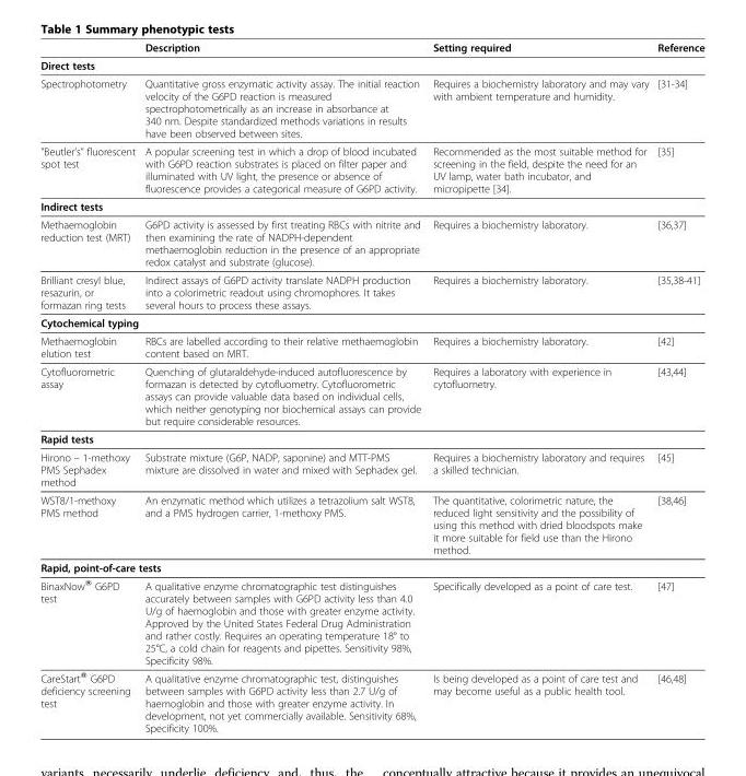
<table><thead><tr><td></td><td>Description</td><td>Setting required</td><td>Reference</td></tr></thead><tbody><tr><td colspan="4">Direct tests</td></tr><tr><td>Spectrophotometry</td><td>Quantitative gross enzymatic activity assay. The initial reaction velocity of the G6PD reaction is measured spectrophotometrically as an increase in absorbance at 340 nm. Despite standardized methods variations in results have been observed between sites.</td><td>Requires a biochemistry laboratory and may vary with ambient temperature and humidity.</td><td>[31-34]</td></tr><tr><td>”Beutler’s” fluorescent spot test</td><td>A popular screening test in which a drop of blood incubated with G6PD reaction substrates is placed on filter paper and illuminated with UV light, the presence or absence of fluorescence provides a categorical measure of G6PD activity.</td><td>Recommended as the most suitable method for screening in the field, despite the need for an UV lamp, water bath incubator, and micropipette [34].</td><td>[35]</td></tr><tr><td colspan="4">Indirect tests</td></tr><tr><td>Methaemoglobin reduction test (MRT)</td><td>G6PD activity is assessed by first treating RBCs with nitrite and then examining the rate of NADPH-dependent methaemoglobin reduction in the presence of an appropriate redox catalyst and substrate (glucose).</td><td>Requires a biochemistry laboratory.</td><td>[36,37]</td></tr><tr><td>Brilliant cresyl blue, resazurin, or formazan ring tests</td><td>Indirect assays of G6PD activity translate NADPH production into a colorimetric readout using chromophores. It takes several hours to process these assays.</td><td>Requires a biochemistry laboratory.</td><td>[35,38-41]</td></tr><tr><td colspan="4">Cytochemical typing</td></tr><tr><td>Methaemoglobin elution test</td><td>RBCs are labelled according to their relative methaemoglobin content based on MRT.</td><td>Requires a biochemistry laboratory.</td><td>[42]</td></tr><tr><td>Cytofluorometric assay</td><td>Quenching of glutaraldehyde-induced autofluorescence by formazan is detected by cytofluometry. Cytofluorometric assays can provide valuable data based on individual cells, which neither genotyping nor biochemical assays can provide but require considerable resources.</td><td>Requires a laboratory with experience in cytofluometry.</td><td>[43,44]</td></tr><tr><td colspan="4">Rapid tests</td></tr><tr><td>Hirono – 1-methoxy PMS Sephadex method</td><td>Substrate mixture (G6P, NADP, saponine) and MTT-PMS mixture are dissolved in water and mixed with Sephadex gel.</td><td>Requires a biochemistry laboratory and requires a skilled technician.</td><td>[45]</td></tr><tr><td>WST8/1-methoxy PMS method</td><td>An enzymatic method which utilizes a tetrazolium salt WST8, and a PMS hydrogen carrier, 1-methoxy PMS.</td><td>The quantitative, colorimetric nature, the reduced light sensitivity and the possibility of using this method with dried bloodspots make it more suitable for field use than the Hirono method.</td><td>[38,46]</td></tr><tr><td colspan="4">Rapid, point-of-care tests</td></tr><tr><td>BinaxNow<sup>®</sup> G6PD test</td><td>A qualitative enzyme chromatographic test distinguishes accurately between samples with G6PD activity less than 4.0 U/g of haemoglobin and those with greater enzyme activity. Approved by the United States Federal Drug Administration and rather costly. Requires an operating temperature 18° to 25°C, a cold chain for reagents and pipettes. Sensitivity 98%, Specificity 98%.</td><td>Specifically developed as a point of care test.</td><td>[47]</td></tr><tr><td>CareStart<sup>®</sup> G6PD deficiency screening test</td><td>A qualitative enzyme chromatographic test, distinguishes between samples with G6PD activity less than 2.7 U/g of haemoglobin and those with greater enzyme activity. In development, not yet commercially available. Sensitivity 68%, Specificity 100%.</td><td>Is being developed as a point of care test and may become useful as a public health tool.</td><td>[46,48]</td></tr></tbody></table>